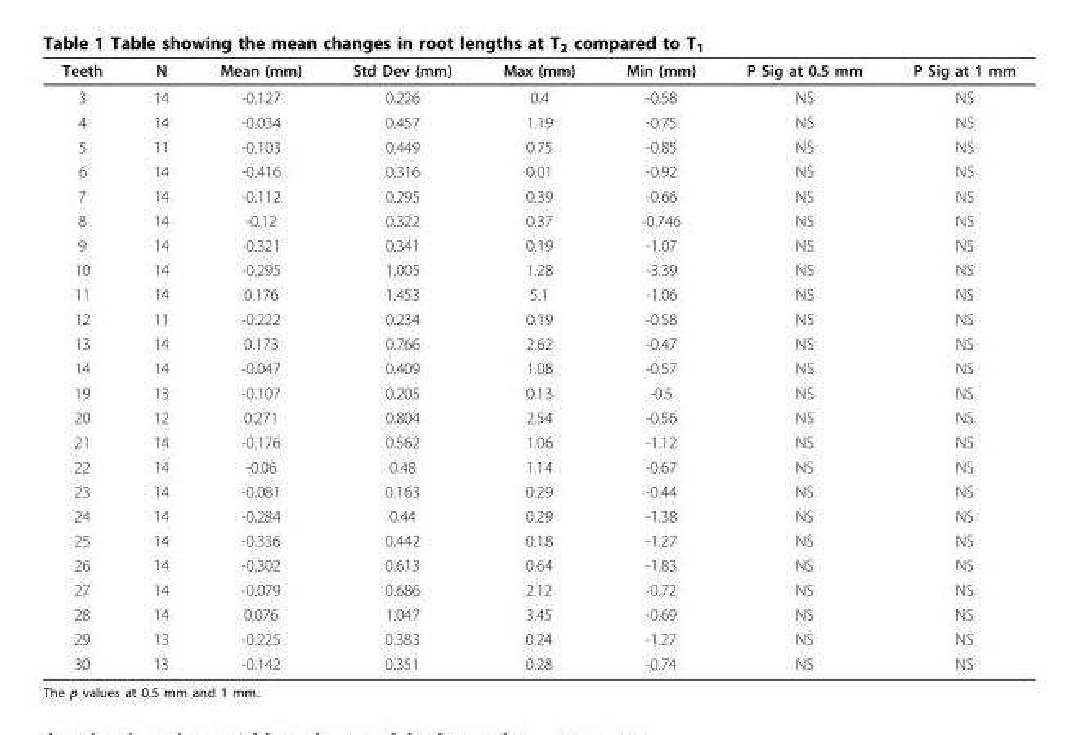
<table><thead><tr><td>Teeth</td><td>N</td><td>Mean (mm)</td><td>Std Dev (mm)</td><td>Max (mm)</td><td>Min (mm)</td><td>P Sig at 0.5 mm</td><td>P Sig at 1 mm</td></tr></thead><tbody><tr><td>3</td><td>14</td><td>-0.127</td><td>0.226</td><td>0.4</td><td>-0.58</td><td>NS</td><td>NS</td></tr><tr><td>4</td><td>14</td><td>-0.034</td><td>0.457</td><td>1.19</td><td>-0.75</td><td>NS</td><td>NS</td></tr><tr><td>5</td><td>11</td><td>-0.103</td><td>0.449</td><td>0.75</td><td>-0.85</td><td>NS</td><td>NS</td></tr><tr><td>6</td><td>14</td><td>-0.416</td><td>0.316</td><td>0.01</td><td>-0.92</td><td>NS</td><td>NS</td></tr><tr><td>7</td><td>14</td><td>-0.112</td><td>0.295</td><td>0.39</td><td>-0.66</td><td>NS</td><td>NS</td></tr><tr><td>8</td><td>14</td><td>-0.12</td><td>0.322</td><td>0.37</td><td>-0.746</td><td>NS</td><td>NS</td></tr><tr><td>9</td><td>14</td><td>-0.321</td><td>0.341</td><td>0.19</td><td>-1.07</td><td>NS</td><td>NS</td></tr><tr><td>10</td><td>14</td><td>-0.295</td><td>1.005</td><td>1.28</td><td>-3.39</td><td>NS</td><td>NS</td></tr><tr><td>11</td><td>14</td><td>0.176</td><td>1.453</td><td>5.1</td><td>-1.06</td><td>NS</td><td>NS</td></tr><tr><td>12</td><td>11</td><td>-0.222</td><td>0.234</td><td>0.19</td><td>-0.58</td><td>NS</td><td>NS</td></tr><tr><td>13</td><td>14</td><td>0.173</td><td>0.766</td><td>2.62</td><td>-0.47</td><td>NS</td><td>NS</td></tr><tr><td>14</td><td>14</td><td>-0.047</td><td>0.409</td><td>1.08</td><td>-0.57</td><td>NS</td><td>NS</td></tr><tr><td>19</td><td>13</td><td>-0.107</td><td>0.205</td><td>0.13</td><td>-0.5</td><td>NS</td><td>NS</td></tr><tr><td>20</td><td>12</td><td>0.271</td><td>0.804</td><td>2.54</td><td>-0.56</td><td>NS</td><td>NS</td></tr><tr><td>21</td><td>14</td><td>-0.176</td><td>0.562</td><td>1.06</td><td>-1.12</td><td>NS</td><td>NS</td></tr><tr><td>22</td><td>14</td><td>-0.06</td><td>0.48</td><td>1.14</td><td>-0.67</td><td>NS</td><td>NS</td></tr><tr><td>23</td><td>14</td><td>-0.081</td><td>0.163</td><td>0.29</td><td>-0.44</td><td>NS</td><td>NS</td></tr><tr><td>24</td><td>14</td><td>-0.284</td><td>0.44</td><td>0.29</td><td>-1.38</td><td>NS</td><td>NS</td></tr><tr><td>25</td><td>14</td><td>-0.336</td><td>0.442</td><td>0.18</td><td>-1.27</td><td>NS</td><td>NS</td></tr><tr><td>26</td><td>14</td><td>-0.302</td><td>0.613</td><td>0.64</td><td>-1.83</td><td>NS</td><td>NS</td></tr><tr><td>27</td><td>14</td><td>-0.079</td><td>0.686</td><td>2.12</td><td>-0.72</td><td>NS</td><td>NS</td></tr><tr><td>28</td><td>14</td><td>0.076</td><td>1.047</td><td>3.45</td><td>-0.69</td><td>NS</td><td>NS</td></tr><tr><td>29</td><td>13</td><td>-0.225</td><td>0.383</td><td>0.24</td><td>-1.27</td><td>NS</td><td>NS</td></tr><tr><td>30</td><td>13</td><td>-0.142</td><td>0.351</td><td>0.28</td><td>-0.74</td><td>NS</td><td>NS</td></tr></tbody></table>